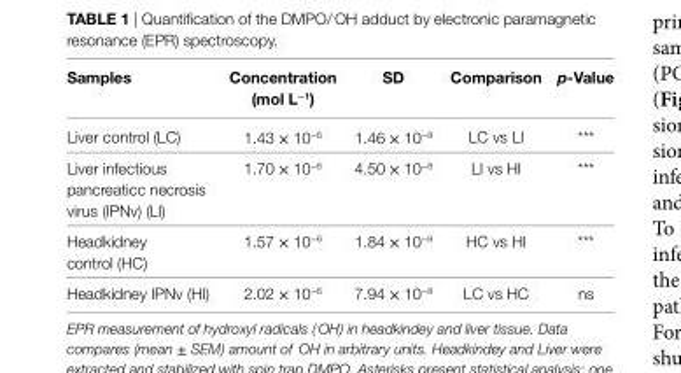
<table><thead><tr><td>samples</td><td>concentration (mol l<sup>−1</sup>)</td><td>sD</td><td>comparison</td><td>p-Value</td></tr></thead><tbody><tr><td>Liver control (LC)</td><td>1.43 × 10<sup>−6</sup></td><td>1.46 × 10<sup>−8</sup></td><td>LC vs LI</td><td>***</td></tr><tr><td>Liver infectious pancreaticc necrosis virus (IPNv) (LI)</td><td>1.70 × 10<sup>−6</sup></td><td>4.50 × 10<sup>−8</sup></td><td>LI vs HI</td><td>***</td></tr><tr><td>Headkidney control (HC)</td><td>1.57 × 10<sup>−6</sup></td><td>1.84 × 10<sup>−8</sup></td><td>HC vs HI</td><td>***</td></tr><tr><td>Headkidney IPNv (HI)</td><td>2.02 × 10<sup>−6</sup></td><td>7.94 × 10<sup>−8</sup></td><td>LC vs HC</td><td>ns</td></tr></tbody></table>